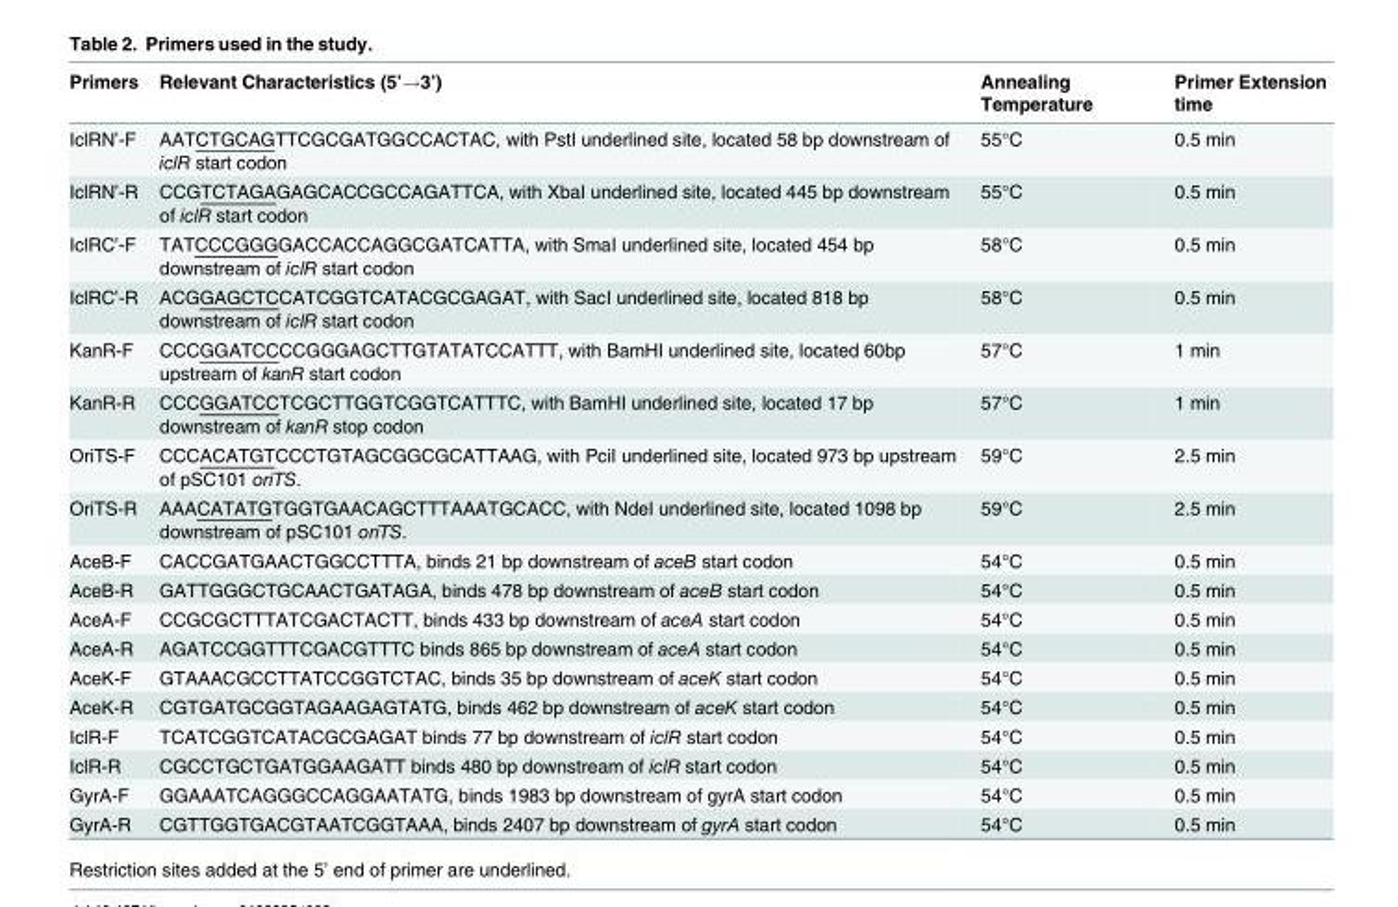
<table><thead><tr><td>Primers</td><td>Relevant Characteristics (5’→3’)</td><td>Annealing Temperature</td><td>Primer Extension time</td></tr></thead><tbody><tr><td>IclRN’-F</td><td>AATCTGCAGTTCGCGATGGCCACTAC, with PstI underlined site, located 58 bp downstream of iclR start codon</td><td>55°C</td><td>0.5 min</td></tr><tr><td>IclRN’-R</td><td>CCGTCTAGAGAGCACCGCCAGATTCA, with XbaI underlined site, located 445 bp downstream of iclR start codon</td><td>55°C</td><td>0.5 min</td></tr><tr><td>IclRC’-F</td><td>TATCCCGGGGACCACCAGGCGATCATTA, with SmaI underlined site, located 454 bp downstream of iclR start codon</td><td>58°C</td><td>0.5 min</td></tr><tr><td>IclRC’-R</td><td>ACGGAGCTCCATCGGTCATACGCGAGAT, with SacI underlined site, located 818 bp downstream of iclR start codon</td><td>58°C</td><td>0.5 min</td></tr><tr><td>KanR-F</td><td>CCCGGATCCCCGGGAGCTTGTATATCCATTT, with BamHI underlined site, located 60bp upstream of kanR start codon</td><td>57°C</td><td>1 min</td></tr><tr><td>KanR-R</td><td>CCCGGATCCTCGCTTGGTCGGTCATTTC, with BamHI underlined site, located 17 bp downstream of kanR stop codon</td><td>57°C</td><td>1 min</td></tr><tr><td>OriTS-F</td><td>CCCACATGTCCCTGTAGCGGCGCATTAAG, with PciI underlined site, located 973 bp upstream of pSC101 oriTS.</td><td>59°C</td><td>2.5 min</td></tr><tr><td>OriTS-R</td><td>AAACATATGTGGTGAACAGCTTTAAATGCACC, with NdeI underlined site, located 1098 bp downstream of pSC101 oriTS.</td><td>59°C</td><td>2.5 min</td></tr><tr><td>AceB-F</td><td>CACCGATGAACTGGCCTTTA, binds 21 bp downstream of aceB start codon</td><td>54°C</td><td>0.5 min</td></tr><tr><td>AceB-R</td><td>GATTGGGCTGCAACTGATAGA, binds 478 bp downstream of aceB start codon</td><td>54°C</td><td>0.5 min</td></tr><tr><td>AceA-F</td><td>CCGCGCTTTATCGACTACTT, binds 433 bp downstream of aceA start codon</td><td>54°C</td><td>0.5 min</td></tr><tr><td>AceA-R</td><td>AGATCCGGTTTCGACGTTTC binds 865 bp downstream of aceA start codon</td><td>54°C</td><td>0.5 min</td></tr><tr><td>AceK-F</td><td>GTAAACGCCTTATCCGGTCTAC, binds 35 bp downstream of aceK start codon</td><td>54°C</td><td>0.5 min</td></tr><tr><td>AceK-R</td><td>CGTGATGCGGTAGAAGAGTATG, binds 462 bp downstream of aceK start codon</td><td>54°C</td><td>0.5 min</td></tr><tr><td>IclR-F</td><td>TCATCGGTCATACGCGAGAT binds 77 bp downstream of iclR start codon</td><td>54°C</td><td>0.5 min</td></tr><tr><td>IclR-R</td><td>CGCCTGCTGATGGAAGATT binds 480 bp downstream of iclR start codon</td><td>54°C</td><td>0.5 min</td></tr><tr><td>GyrA-F</td><td>GGAAATCAGGGCCAGGAATATG, binds 1983 bp downstream of gyrA start codon</td><td>54°C</td><td>0.5 min</td></tr><tr><td>GyrA-R</td><td>CGTTGGTGACGTAATCGGTAAA, binds 2407 bp downstream of gyrA start codon</td><td>54°C</td><td>0.5 min</td></tr></tbody></table>